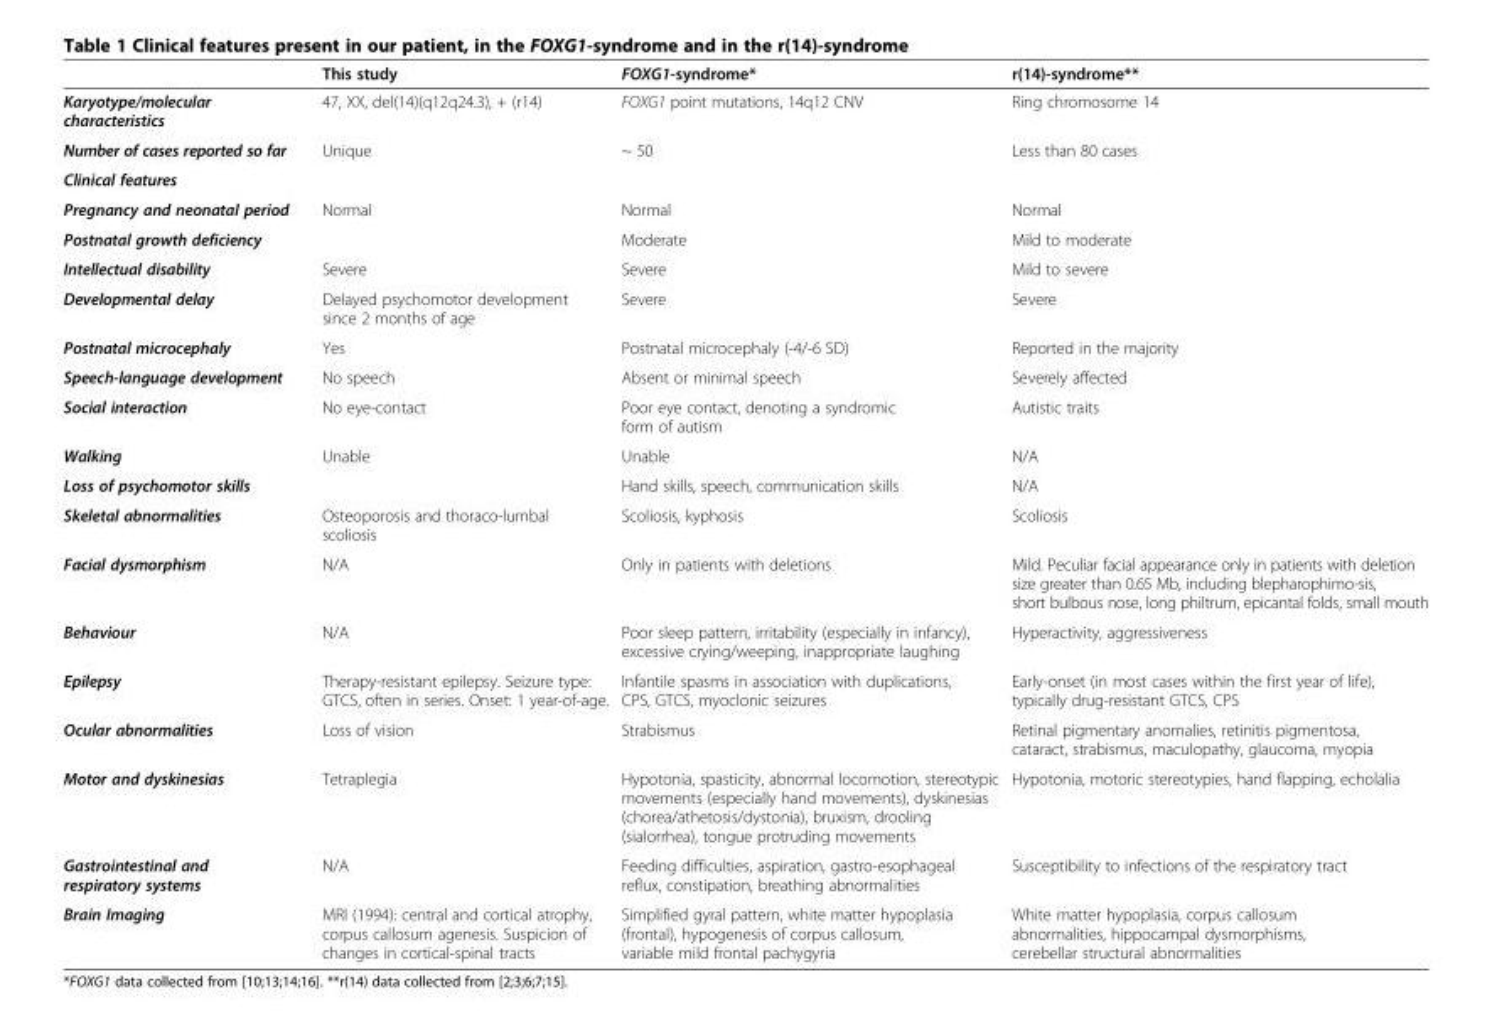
<table><thead><tr><td></td><td>This study</td><td>FOXG1-syndrome*</td><td>r(14)-syndrome**</td></tr></thead><tbody><tr><td>Karyotype/molecular characteristics</td><td>47, XX, del(14)(q12q24.3), + (r14)</td><td>FOXG1 point mutations, 14q12 CNV</td><td>Ring chromosome 14</td></tr><tr><td>Number of cases reported so far</td><td>Unique</td><td>~ 50</td><td>Less than 80 cases</td></tr><tr><td colspan="4">Clinical features</td></tr><tr><td>Pregnancy and neonatal period</td><td>Normal</td><td>Normal</td><td>Normal</td></tr><tr><td>Postnatal growth deficiency</td><td></td><td>Moderate</td><td>Mild to moderate</td></tr><tr><td>Intellectual disability</td><td>Severe</td><td>Severe</td><td>Mild to severe</td></tr><tr><td>Developmental delay</td><td>Delayed psychomotor development since 2 months of age</td><td>Severe</td><td>Severe</td></tr><tr><td>Postnatal microcephaly</td><td>Yes</td><td>Postnatal microcephaly (-4/-6 SD)</td><td>Reported in the majority</td></tr><tr><td>Speech-language development</td><td>No speech</td><td>Absent or minimal speech</td><td>Severely affected</td></tr><tr><td>Social interaction</td><td>No eye-contact</td><td>Poor eye contact, denoting a syndromic form of autism</td><td>Autistic traits</td></tr><tr><td>Walking</td><td>Unable</td><td>Unable</td><td>N/A</td></tr><tr><td>Loss of psychomotor skills</td><td></td><td>Hand skills, speech, communication skills</td><td>N/A</td></tr><tr><td>Skeletal abnormalities</td><td>Osteoporosis and thoraco-lumbal scoliosis</td><td>Scoliosis, kyphosis</td><td>Scoliosis</td></tr><tr><td>Facial dysmorphism</td><td>N/A</td><td>Only in patients with deletions</td><td>Mild. Peculiar facial appearance only in patients with deletion size greater than 0.65 Mb, including blepharophimo-sis, short bulbous nose, long philtrum, epicantal folds, small mouth</td></tr><tr><td>Behaviour</td><td>N/A</td><td>Poor sleep pattern, irritability (especially in infancy), excessive crying/weeping, inappropriate laughing</td><td>Hyperactivity, aggressiveness</td></tr><tr><td>Epilepsy</td><td>Therapy-resistant epilepsy. Seizure type: GTCS, often in series. Onset: 1 year-of-age.</td><td>Infantile spasms in association with duplications, CPS, GTCS, myoclonic seizures</td><td>Early-onset (in most cases within the first year of life), typically drug-resistant GTCS, CPS</td></tr><tr><td>Ocular abnormalities</td><td>Loss of vision</td><td>Strabismus</td><td>Retinal pigmentary anomalies, retinitis pigmentosa, cataract, strabismus, maculopathy, glaucoma, myopia</td></tr><tr><td>Motor and dyskinesias</td><td>Tetraplegia</td><td>Hypotonia, spasticity, abnormal locomotion, stereotypic movements (especially hand movements), dyskinesias (chorea/athetosis/dystonia), bruxism, drooling (sialorrhea), tongue protruding movements</td><td>Hypotonia, motoric stereotypies, hand flapping, echolalia</td></tr><tr><td>Gastrointestinal and respiratory systems</td><td>N/A</td><td>Feeding difficulties, aspiration, gastro-esophageal reflux, constipation, breathing abnormalities</td><td>Susceptibility to infections of the respiratory tract</td></tr><tr><td>Brain Imaging</td><td>MRI (1994): central and cortical atrophy, corpus callosum agenesis. Suspicion of changes in cortical-spinal tracts</td><td>Simplified gyral pattern, white matter hypoplasia (frontal), hypogenesis of corpus callosum, variable mild frontal pachygyria</td><td>White matter hypoplasia, corpus callosum abnormalities, hippocampal dysmorphisms, cerebellar structural abnormalities</td></tr></tbody></table>